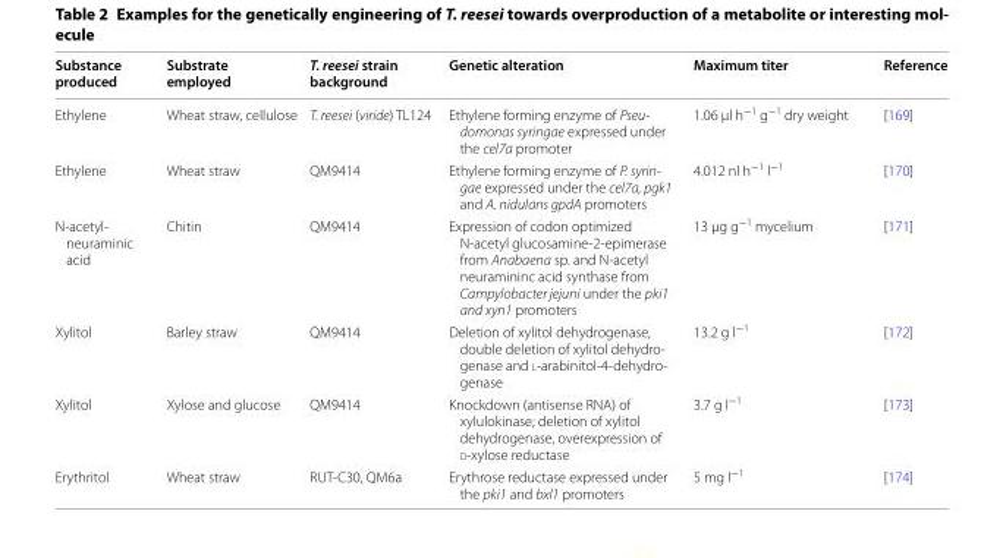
<table><thead><tr><td>Substance produced</td><td>Substrate employed</td><td>T. reesei strain background</td><td>Genetic alteration</td><td>Maximum titer</td><td>Reference</td></tr></thead><tbody><tr><td>Ethylene</td><td>Wheat straw, cellulose</td><td>T. reesei (viride) TL124</td><td>Ethylene forming enzyme of Pseu- domonas syringae expressed under the cel7a promoter</td><td>1.06 µl h<sup>−1</sup> g<sup>−1</sup> dry weight</td><td>[169]</td></tr><tr><td>Ethylene</td><td>Wheat straw</td><td>QM9414</td><td>Ethylene forming enzyme of P. syrin- gae expressed under the cel7a, pgk1 and A. nidulans gpdA promoters</td><td>4.012 nl h<sup>−1</sup> l<sup>−1</sup></td><td>[170]</td></tr><tr><td>N-acetyl- neuraminic acid</td><td>Chitin</td><td>QM9414</td><td>Expression of codon optimized N-acetyl glucosamine-2-epimerase from Anabaena sp. and N-acetyl neuramininc acid synthase from Campylobacter jejuni under the pki1 and xyn1 promoters</td><td>13 µg g<sup>−1</sup> mycelium</td><td>[171]</td></tr><tr><td>Xylitol</td><td>Barley straw</td><td>QM9414</td><td>Deletion of xylitol dehydrogenase, double deletion of xylitol dehydro- genase and l-arabinitol-4-dehydro- genase</td><td>13.2 g l<sup>−1</sup></td><td>[172]</td></tr><tr><td>Xylitol</td><td>Xylose and glucose</td><td>QM9414</td><td>Knockdown (antisense RNA) of xylulokinase; deletion of xylitol dehydrogenase, overexpression of d-xylose reductase</td><td>3.7 g l<sup>−1</sup></td><td>[173]</td></tr><tr><td>Erythritol</td><td>Wheat straw</td><td>RUT-C30, QM6a</td><td>Erythrose reductase expressed under the pki1 and bxl1 promoters</td><td>5 mg l<sup>−1</sup></td><td>[174]</td></tr></tbody></table>